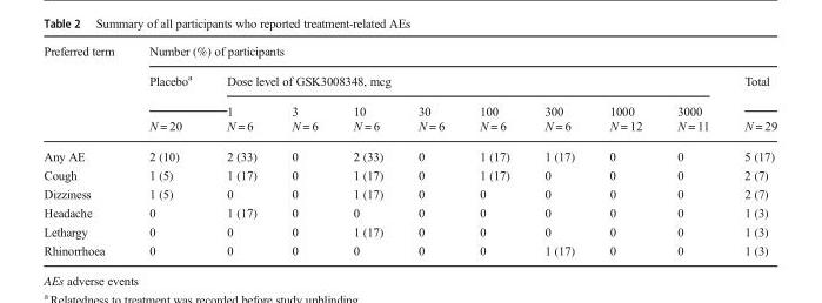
<table><thead><tr><td rowspan="4">Preferred term</td><td colspan="10">Number (%) of participants</td></tr><tr><td rowspan="3">Placebo<sup>a</sup> N = 20</td><td colspan="8">Dose level of GSK3008348, mcg</td><td rowspan="3">Total N = 29</td></tr><tr><td rowspan="2">1 N = 6</td><td rowspan="2">3 N = 6</td><td rowspan="2">10 N = 6</td><td rowspan="2">30 N = 6</td><td rowspan="2">100 N = 6</td><td rowspan="2">300 N = 6</td><td rowspan="2">1000 N = 12</td><td rowspan="2">3000 N = 11</td></tr><tr></tr></thead><tbody><tr><td>Any AE</td><td>2 (10)</td><td>2 (33)</td><td>0</td><td>2 (33)</td><td>0</td><td>1 (17)</td><td>1 (17)</td><td>0</td><td>0</td><td>5 (17)</td></tr><tr><td>Cough</td><td>1 (5)</td><td>1 (17)</td><td>0</td><td>1 (17)</td><td>0</td><td>1 (17)</td><td>0</td><td>0</td><td>0</td><td>2 (7)</td></tr><tr><td>Dizziness</td><td>1 (5)</td><td>0</td><td>0</td><td>1 (17)</td><td>0</td><td>0</td><td>0</td><td>0</td><td>0</td><td>2 (7)</td></tr><tr><td>Headache</td><td>0</td><td>1 (17)</td><td>0</td><td>0</td><td>0</td><td>0</td><td>0</td><td>0</td><td>0</td><td>1 (3)</td></tr><tr><td>Lethargy</td><td>0</td><td>0</td><td>0</td><td>1 (17)</td><td>0</td><td>0</td><td>0</td><td>0</td><td>0</td><td>1 (3)</td></tr><tr><td>Rhinorrhoea</td><td>0</td><td>0</td><td>0</td><td>0</td><td>0</td><td>0</td><td>1 (17)</td><td>0</td><td>0</td><td>1 (3)</td></tr></tbody></table>